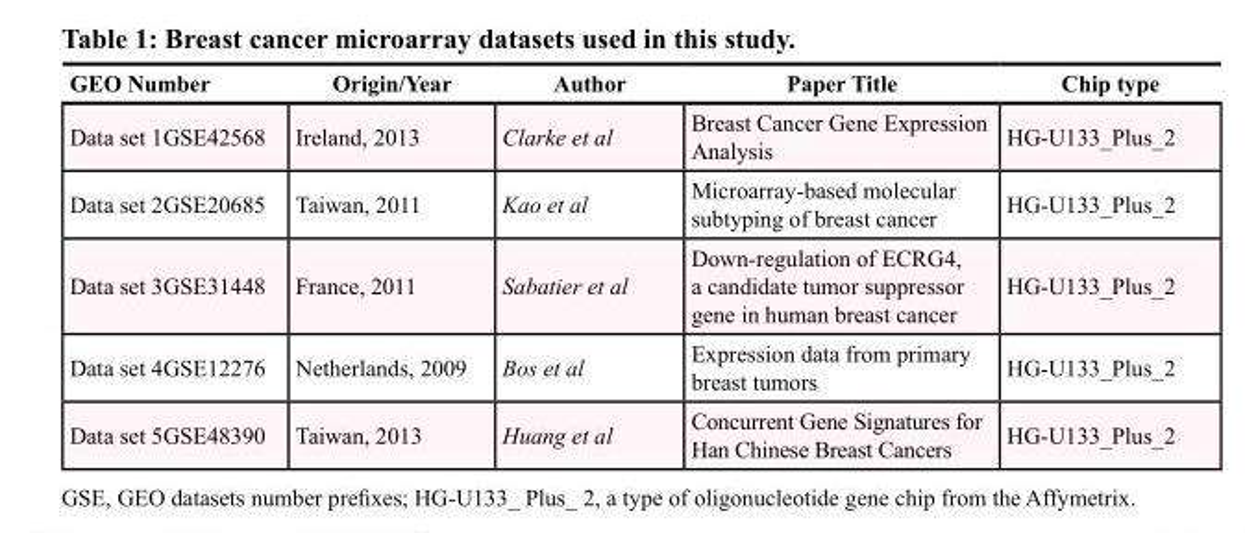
<table><thead><tr><td>GEO Number</td><td>Origin/Year</td><td>Author</td><td>Paper Title</td><td>Chip type</td></tr></thead><tbody><tr><td>Data set 1GSE42568</td><td>Ireland, 2013</td><td>Clarke et al</td><td>Breast Cancer Gene Expression Analysis</td><td>HG-U133_Plus_2</td></tr><tr><td>Data set 2GSE20685</td><td>Taiwan, 2011</td><td>Kao et al</td><td>Microarray-based molecular subtyping of breast cancer</td><td>HG-U133_Plus_2</td></tr><tr><td>Data set 3GSE31448</td><td>France, 2011</td><td>Sabatier et al</td><td>Down-regulation of ECRG4, a candidate tumor suppressor gene in human breast cancer</td><td>HG-U133_Plus_2</td></tr><tr><td>Data set 4GSE12276</td><td>Netherlands, 2009</td><td>Bos et al</td><td>Expression data from primary breast tumors</td><td>HG-U133_Plus_2</td></tr><tr><td>Data set 5GSE48390</td><td>Taiwan, 2013</td><td>Huang et al</td><td>Concurrent Gene Signatures for Han Chinese Breast Cancers</td><td>HG-U133_Plus_2</td></tr></tbody></table>